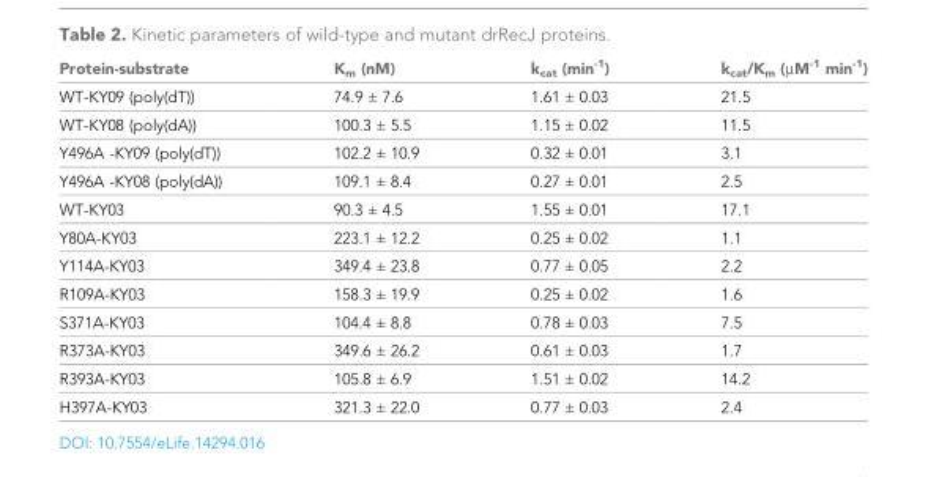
<table><thead><tr><td>Protein-substrate</td><td>K<sub>m</sub> (nM)</td><td>k<sub>cat</sub> (min<sup>-1</sup>)</td><td>k<sub>cat</sub>/K<sub>m</sub> (µM<sup>-1</sup> min<sup>-1</sup>)</td></tr></thead><tbody><tr><td>WT-KY09 (poly(dT))</td><td>74.9 ± 7.6</td><td>1.61 ± 0.03</td><td>21.5</td></tr><tr><td>WT-KY08 (poly(dA))</td><td>100.3 ± 5.5</td><td>1.15 ± 0.02</td><td>11.5</td></tr><tr><td>Y496A -KY09 (poly(dT))</td><td>102.2 ± 10.9</td><td>0.32 ± 0.01</td><td>3.1</td></tr><tr><td>Y496A -KY08 (poly(dA))</td><td>109.1 ± 8.4</td><td>0.27 ± 0.01</td><td>2.5</td></tr><tr><td>WT-KY03</td><td>90.3 ± 4.5</td><td>1.55 ± 0.01</td><td>17.1</td></tr><tr><td>Y80A-KY03</td><td>223.1 ± 12.2</td><td>0.25 ± 0.02</td><td>1.1</td></tr><tr><td>Y114A-KY03</td><td>349.4 ± 23.8</td><td>0.77 ± 0.05</td><td>2.2</td></tr><tr><td>R109A-KY03</td><td>158.3 ± 19.9</td><td>0.25 ± 0.02</td><td>1.6</td></tr><tr><td>S371A-KY03</td><td>104.4 ± 8.8</td><td>0.78 ± 0.03</td><td>7.5</td></tr><tr><td>R373A-KY03</td><td>349.6 ± 26.2</td><td>0.61 ± 0.03</td><td>1.7</td></tr><tr><td>R393A-KY03</td><td>105.8 ± 6.9</td><td>1.51 ± 0.02</td><td>14.2</td></tr><tr><td>H397A-KY03</td><td>321.3 ± 22.0</td><td>0.77 ± 0.03</td><td>2.4</td></tr></tbody></table>